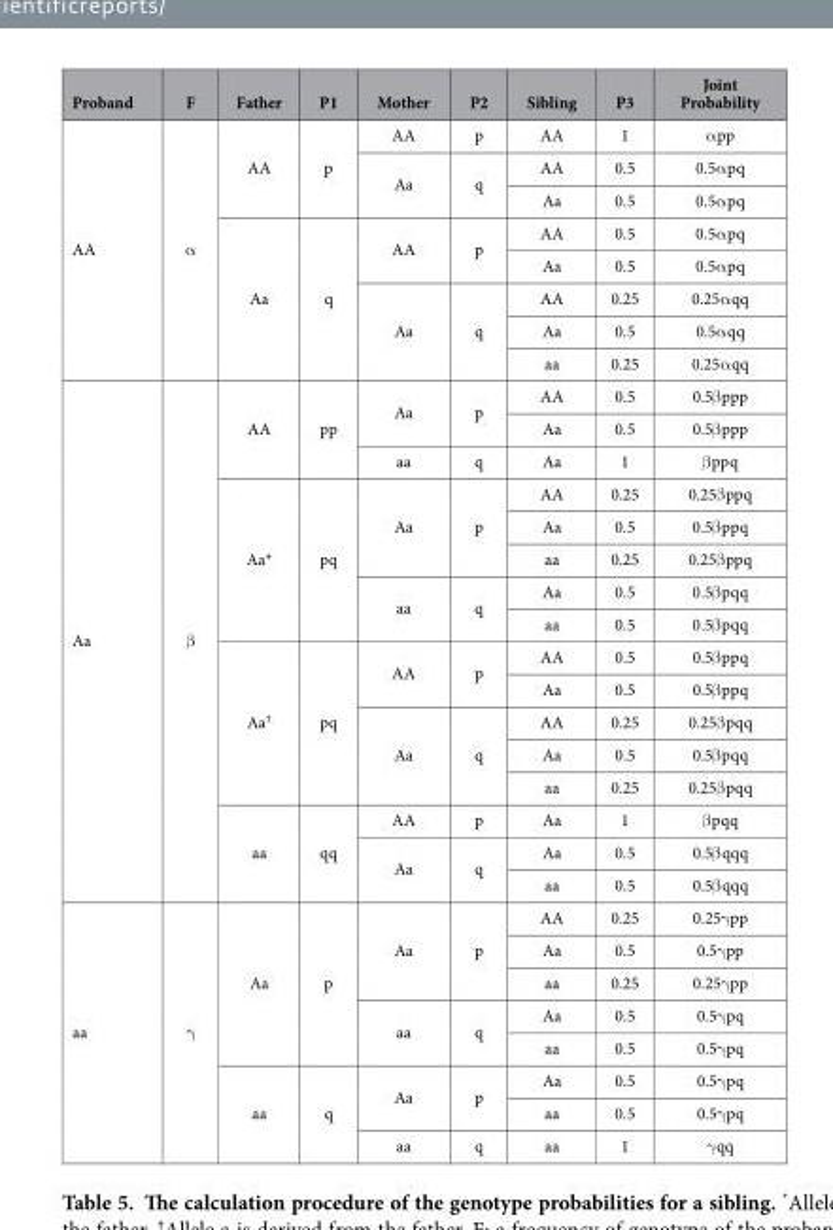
<table><thead><tr><td>Proband</td><td>F</td><td>Father</td><td>P1</td><td>Mother</td><td>P2</td><td>Sibling</td><td>P3</td><td>Joint Probability</td></tr></thead><tbody><tr><td rowspan="8">AA</td><td rowspan="8">α</td><td rowspan="3">AA</td><td rowspan="3">p</td><td>AA</td><td>p</td><td>AA</td><td>1</td><td>α pp</td></tr><tr><td rowspan="2">Aa</td><td rowspan="2">q</td><td>AA</td><td>0.5</td><td>0.5α pq</td></tr><tr><td>Aa</td><td>0.5</td><td>0.5α pq</td></tr><tr><td rowspan="5">Aa</td><td rowspan="5">q</td><td rowspan="2">AA</td><td rowspan="2">p</td><td>AA</td><td>0.5</td><td>0.5α pq</td></tr><tr><td>Aa</td><td>0.5</td><td>0.5α pq</td></tr><tr><td rowspan="3">Aa</td><td rowspan="3">q</td><td>AA</td><td>0.25</td><td>0.25α qq</td></tr><tr><td>Aa</td><td>0.5</td><td>0.5α qq</td></tr><tr><td>aa</td><td>0.25</td><td>0.25α qq</td></tr><tr><td rowspan="16">Aa</td><td rowspan="16">β</td><td rowspan="3">AA</td><td rowspan="3">pp</td><td rowspan="2">Aa</td><td rowspan="2">p</td><td>AA</td><td>0.5</td><td>0.5β ppp</td></tr><tr><td>Aa</td><td>0.5</td><td>0.5β ppp</td></tr><tr><td>aa</td><td>q</td><td>Aa</td><td>1</td><td>β ppq</td></tr><tr><td rowspan="5">Aa*</td><td rowspan="5">pq</td><td rowspan="3">Aa</td><td rowspan="3">p</td><td>AA</td><td>0.25</td><td>0.25β ppq</td></tr><tr><td>Aa</td><td>0.5</td><td>0.5β ppq</td></tr><tr><td>aa</td><td>0.25</td><td>0.25β ppq</td></tr><tr><td rowspan="2">aa</td><td rowspan="2">q</td><td>Aa</td><td>0.5</td><td>0.5β pqq</td></tr><tr><td>aa</td><td>0.5</td><td>0.5β pqq</td></tr><tr><td rowspan="5">Aa<sup>†</sup></td><td rowspan="5">pq</td><td rowspan="2">AA</td><td rowspan="2">p</td><td>AA</td><td>0.5</td><td>0.5β ppq</td></tr><tr><td>Aa</td><td>0.5</td><td>0.5β ppq</td></tr><tr><td rowspan="3">Aa</td><td rowspan="3">q</td><td>AA</td><td>0.25</td><td>0.25β pqq</td></tr><tr><td>Aa</td><td>0.5</td><td>0.5β pqq</td></tr><tr><td>aa</td><td>0.25</td><td>0.25β pqq</td></tr><tr><td rowspan="3">aa</td><td rowspan="3">qq</td><td>AA</td><td>p</td><td>Aa</td><td>1</td><td>β pqq</td></tr><tr><td rowspan="2">Aa</td><td rowspan="2">q</td><td>Aa</td><td>0.5</td><td>0.5β qqq</td></tr><tr><td>aa</td><td>0.5</td><td>0.5β qqq</td></tr><tr><td rowspan="8">aa</td><td rowspan="8">γ</td><td rowspan="5">Aa</td><td rowspan="5">p</td><td rowspan="3">Aa</td><td rowspan="3">p</td><td>AA</td><td>0.25</td><td>0.25γ pp</td></tr><tr><td>Aa</td><td>0.5</td><td>0.5γ pp</td></tr><tr><td>aa</td><td>0.25</td><td>0.25γ pp</td></tr><tr><td rowspan="2">aa</td><td rowspan="2">q</td><td>Aa</td><td>0.5</td><td>0.5γ pq</td></tr><tr><td>aa</td><td>0.5</td><td>0.5γ pq</td></tr><tr><td rowspan="3">aa</td><td rowspan="3">q</td><td rowspan="2">Aa</td><td rowspan="2">p</td><td>Aa</td><td>0.5</td><td>0.5γ pq</td></tr><tr><td>aa</td><td>0.5</td><td>0.5γ pq</td></tr><tr><td>aa</td><td>q</td><td>aa</td><td>1</td><td>γ qq</td></tr></tbody></table>